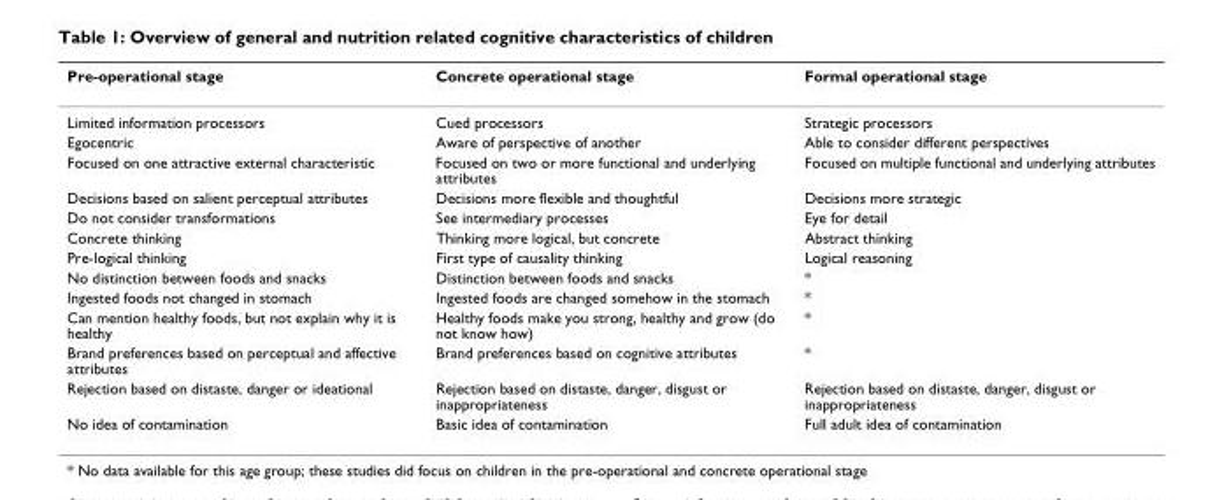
<table><thead><tr><td>Pre-operational stage</td><td>Concrete operational stage</td><td>Formal operational stage</td></tr></thead><tbody><tr><td>Limited information processors</td><td>Cued processors</td><td>Strategic processors</td></tr><tr><td>Egocentric</td><td>Aware of perspective of another</td><td>Able to consider different perspectives</td></tr><tr><td>Focused on one attractive external characteristic</td><td>Focused on two or more functional and underlying attributes</td><td>Focused on multiple functional and underlying attributes</td></tr><tr><td>Decisions based on salient perceptual attributes</td><td>Decisions more flexible and thoughtful</td><td>Decisions more strategic</td></tr><tr><td>Do not consider transformations</td><td>See intermediary processes</td><td>Eye for detail</td></tr><tr><td>Concrete thinking</td><td>Thinking more logical, but concrete</td><td>Abstract thinking</td></tr><tr><td>Pre-logical thinking</td><td>First type of causality thinking</td><td>Logical reasoning</td></tr><tr><td>No distinction between foods and snacks</td><td>Distinction between foods and snacks</td><td>*</td></tr><tr><td>Ingested foods not changed in stomach</td><td>Ingested foods are changed somehow in the stomach</td><td>*</td></tr><tr><td>Can mention healthy foods, but not explain why it is healthy</td><td>Healthy foods make you strong, healthy and grow (do not know how)</td><td>*</td></tr><tr><td>Brand preferences based on perceptual and affective attributes</td><td>Brand preferences based on cognitive attributes</td><td>*</td></tr><tr><td>Rejection based on distaste, danger or ideational</td><td>Rejection based on distaste, danger, disgust or inappropriateness</td><td>Rejection based on distaste, danger, disgust or inappropriateness</td></tr><tr><td>No idea of contamination</td><td>Basic idea of contamination</td><td>Full adult idea of contamination</td></tr></tbody></table>